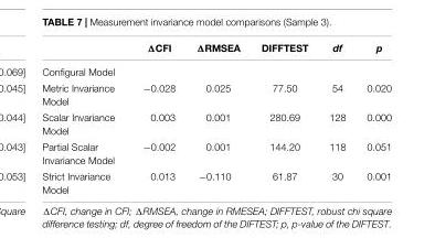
<table><thead><tr><td></td><td>ΔCFI</td><td>ΔRMSEA</td><td>DIFFTEST</td><td>df</td><td>p</td></tr></thead><tbody><tr><td colspan="6">Configural Model</td></tr><tr><td>Metric Invariance Model</td><td>−0.028</td><td>0.025</td><td>77.50</td><td>54</td><td>0.020</td></tr><tr><td>Scalar Invariance Model</td><td>0.003</td><td>0.001</td><td>280.69</td><td>128</td><td>0.000</td></tr><tr><td>Partial Scalar Invariance Model</td><td>−0.002</td><td>0.001</td><td>144.20</td><td>118</td><td>0.051</td></tr><tr><td>Strict Invariance Model</td><td>0.013</td><td>−0.110</td><td>61.87</td><td>30</td><td>0.001</td></tr></tbody></table>